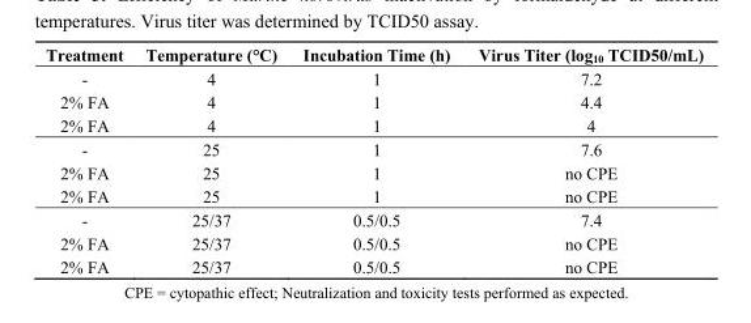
<table><thead><tr><td>Treatment</td><td>Temperature (°C)</td><td>Incubation Time (h)</td><td>Virus Titer (log<sub>10</sub> TCID50/mL)</td></tr></thead><tbody><tr><td>-</td><td>4</td><td>1</td><td>7.2</td></tr><tr><td>2% FA</td><td>4</td><td>1</td><td>4.4</td></tr><tr><td>2% FA</td><td>4</td><td>1</td><td>4</td></tr><tr><td>-</td><td>25</td><td>1</td><td>7.6</td></tr><tr><td>2% FA</td><td>25</td><td>1</td><td>no CPE</td></tr><tr><td>2% FA</td><td>25</td><td>1</td><td>no CPE</td></tr><tr><td>-</td><td>25/37</td><td>0.5/0.5</td><td>7.4</td></tr><tr><td>2% FA</td><td>25/37</td><td>0.5/0.5</td><td>no CPE</td></tr><tr><td>2% FA</td><td>25/37</td><td>0.5/0.5</td><td>no CPE</td></tr></tbody></table>